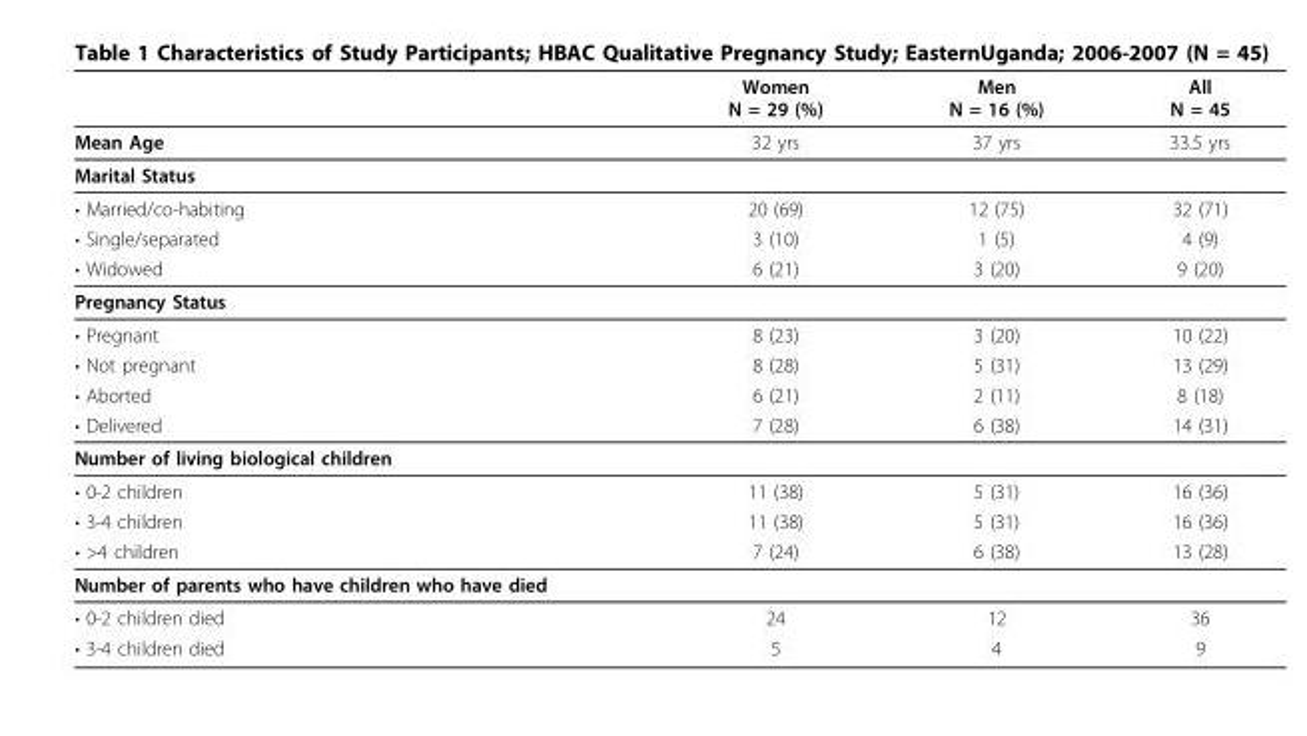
<table><thead><tr><td></td><td>Women N = 29 (%)</td><td>Men N = 16 (%)</td><td>All N = 45</td></tr></thead><tbody><tr><td>Mean Age</td><td>32 yrs</td><td>37 yrs</td><td>33.5 yrs</td></tr><tr><td colspan="4">Marital Status</td></tr><tr><td>• Married/co-habiting</td><td>20 (69)</td><td>12 (75)</td><td>32 (71)</td></tr><tr><td>• Single/separated</td><td>3 (10)</td><td>1 (5)</td><td>4 (9)</td></tr><tr><td>• Widowed</td><td>6 (21)</td><td>3 (20)</td><td>9 (20)</td></tr><tr><td colspan="4">Pregnancy Status</td></tr><tr><td>• Pregnant</td><td>8 (23)</td><td>3 (20)</td><td>10 (22)</td></tr><tr><td>• Not pregnant</td><td>8 (28)</td><td>5 (31)</td><td>13 (29)</td></tr><tr><td>• Aborted</td><td>6 (21)</td><td>2 (11)</td><td>8 (18)</td></tr><tr><td>• Delivered</td><td>7 (28)</td><td>6 (38)</td><td>14 (31)</td></tr><tr><td colspan="4">Number of living biological children</td></tr><tr><td>• 0-2 children</td><td>11 (38)</td><td>5 (31)</td><td>16 (36)</td></tr><tr><td>• 3-4 children</td><td>11 (38)</td><td>5 (31)</td><td>16 (36)</td></tr><tr><td>• &gt;4 children</td><td>7 (24)</td><td>6 (38)</td><td>13 (28)</td></tr><tr><td colspan="4">Number of parents who have children who have died</td></tr><tr><td>• 0-2 children died</td><td>24</td><td>12</td><td>36</td></tr><tr><td>• 3-4 children died</td><td>5</td><td>4</td><td>9</td></tr></tbody></table>